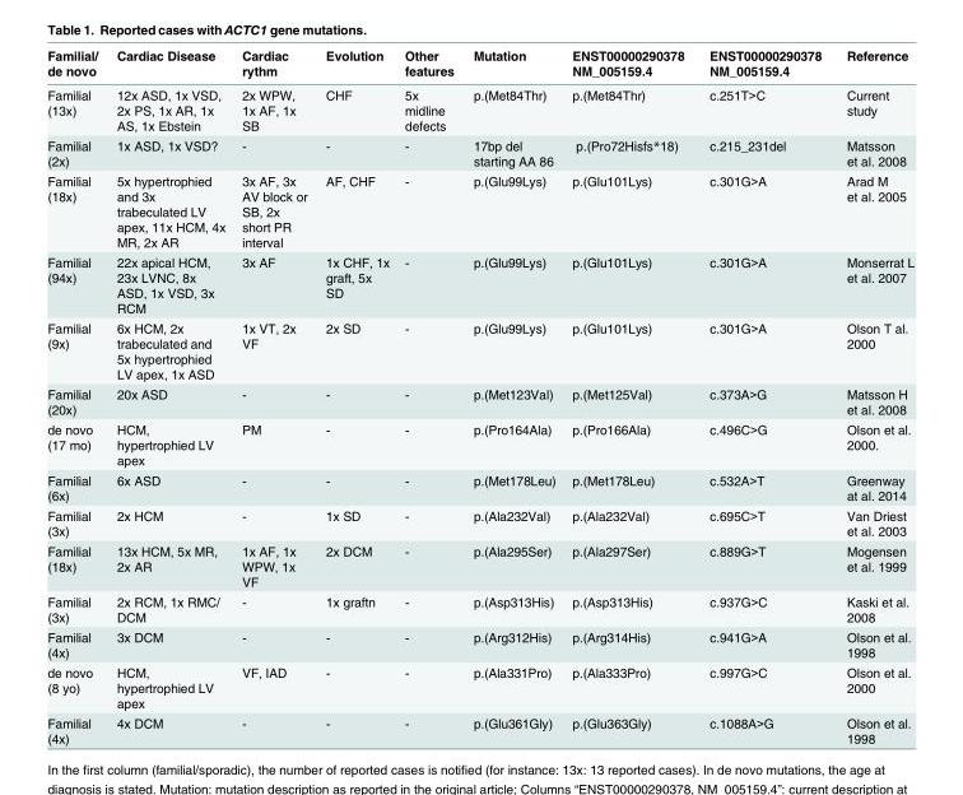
<table><thead><tr><td>Familial/ de novo</td><td>Cardiac Disease</td><td>Cardiac rythm</td><td>Evolution</td><td>Other features</td><td>Mutation</td><td>ENST00000290378 NM_005159.4</td><td>ENST00000290378 NM_005159.4</td><td>Reference</td></tr></thead><tbody><tr><td>Familial (13x)</td><td>12x ASD, 1x VSD, 2x PS, 1x AR, 1x AS, 1x Ebstein</td><td>2x WPW, 1x AF, 1x SB</td><td>CHF</td><td>5x midline defects</td><td>p.(Met84Thr)</td><td>p.(Met84Thr)</td><td>c.251T&gt;C</td><td>Current study</td></tr><tr><td>Familial (2x)</td><td>1x ASD, 1x VSD?</td><td>-</td><td>-</td><td>-</td><td>17bp del starting AA 86</td><td>p.(Pro72Hisfs*18)</td><td>c.215_231del</td><td>Matsson et al. 2008</td></tr><tr><td>Familial (18x)</td><td>5x hypertrophied and 3x trabeculated LV apex, 11x HCM, 4x MR, 2x AR</td><td>3x AF, 3x AV block or SB, 2x short PR interval</td><td>AF, CHF</td><td>-</td><td>p.(Glu99Lys)</td><td>p.(Glu101Lys)</td><td>c.301G&gt;A</td><td>Arad M et al. 2005</td></tr><tr><td>Familial (94x)</td><td>22x apical HCM, 23x LVNC, 8x ASD, 1x VSD, 3x RCM</td><td>3x AF</td><td>1x CHF, 1x graft, 5x SD</td><td>-</td><td>p.(Glu99Lys)</td><td>p.(Glu101Lys)</td><td>c.301G&gt;A</td><td>Monserrat L et al. 2007</td></tr><tr><td>Familial (9x)</td><td>6x HCM, 2x trabeculated and 5x hypertrophied LV apex, 1x ASD</td><td>1x VT, 2x VF</td><td>2x SD</td><td>-</td><td>p.(Glu99Lys)</td><td>p.(Glu101Lys)</td><td>c.301G&gt;A</td><td>Olson T al. 2000</td></tr><tr><td>Familial (20x)</td><td>20x ASD</td><td>-</td><td>-</td><td>-</td><td>p.(Met123Val)</td><td>p.(Met125Val)</td><td>c.373A&gt;G</td><td>Matsson H et al. 2008</td></tr><tr><td>de novo (17 mo)</td><td>HCM, hypertrophied LV apex</td><td>PM</td><td>-</td><td>-</td><td>p.(Pro164Ala)</td><td>p.(Pro166Ala)</td><td>c.496C&gt;G</td><td>Olson et al. 2000.</td></tr><tr><td>Familial (6x)</td><td>6x ASD</td><td>-</td><td>-</td><td>-</td><td>p.(Met178Leu)</td><td>p.(Met178Leu)</td><td>c.532A&gt;T</td><td>Greenway at al. 2014</td></tr><tr><td>Familial (3x)</td><td>2x HCM</td><td>-</td><td>1x SD</td><td>-</td><td>p.(Ala232Val)</td><td>p.(Ala232Val)</td><td>c.695C&gt;T</td><td>Van Driest et al. 2003</td></tr><tr><td>Familial (18x)</td><td>13x HCM, 5x MR, 2x AR</td><td>1x AF, 1x WPW, 1x VF</td><td>2x DCM</td><td>-</td><td>p.(Ala295Ser)</td><td>p.(Ala297Ser)</td><td>c.889G&gt;T</td><td>Mogensen et al. 1999</td></tr><tr><td>Familial (3x)</td><td>2x RCM, 1x RMC/ DCM</td><td>-</td><td>1x graftn</td><td>-</td><td>p.(Asp313His)</td><td>p.(Asp313His)</td><td>c.937G&gt;C</td><td>Kaski et al. 2008</td></tr><tr><td>Familial (4x)</td><td>3x DCM</td><td>-</td><td>-</td><td>-</td><td>p.(Arg312His)</td><td>p.(Arg314His)</td><td>c.941G&gt;A</td><td>Olson et al. 1998</td></tr><tr><td>de novo (8 yo)</td><td>HCM, hypertrophied LV apex</td><td>VF, IAD</td><td>-</td><td>-</td><td>p.(Ala331Pro)</td><td>p.(Ala333Pro)</td><td>c.997G&gt;C</td><td>Olson et al. 2000</td></tr><tr><td>Familial (4x)</td><td>4x DCM</td><td>-</td><td>-</td><td>-</td><td>p.(Glu361Gly)</td><td>p.(Glu363Gly)</td><td>c.1088A&gt;G</td><td>Olson et al. 1998</td></tr></tbody></table>